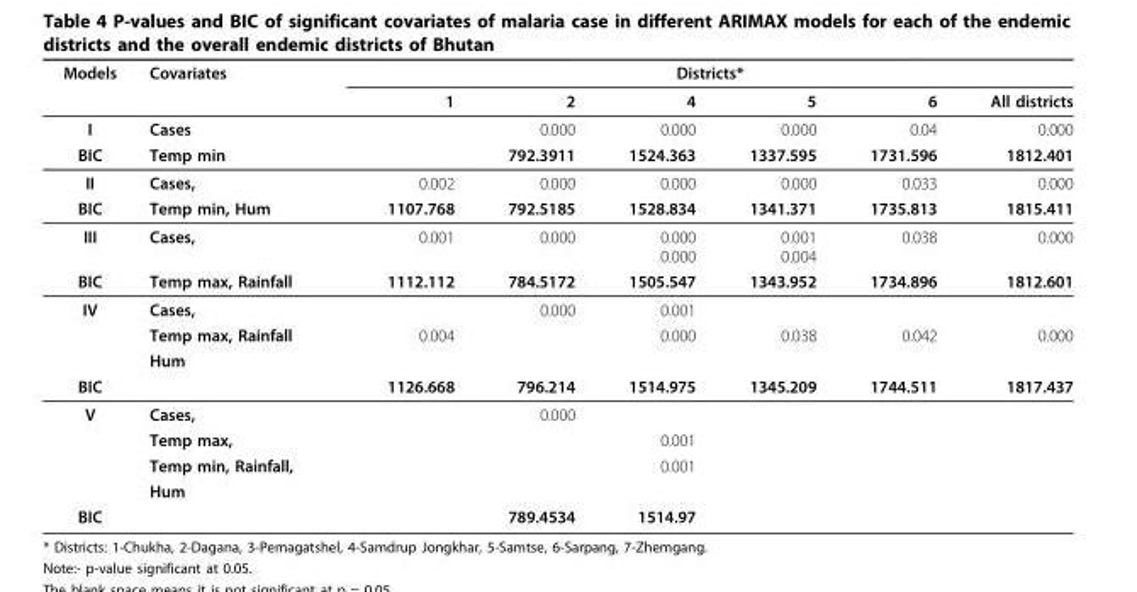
<table><thead><tr><td rowspan="2">Models</td><td rowspan="2">Covariates</td><td colspan="6">Districts*</td></tr><tr><td>1</td><td>2</td><td>4</td><td>5</td><td>6</td><td>All districts</td></tr></thead><tbody><tr><td>I</td><td>Cases</td><td></td><td>0.000</td><td>0.000</td><td>0.000</td><td>0.04</td><td>0.000</td></tr><tr><td>BIC</td><td>Temp min</td><td></td><td>792.3911</td><td>1524.363</td><td>1337.595</td><td>1731.596</td><td>1812.401</td></tr><tr><td>II</td><td>Cases,</td><td>0.002</td><td>0.000</td><td>0.000</td><td>0.000</td><td>0.033</td><td>0.000</td></tr><tr><td>BIC</td><td>Temp min, Hum</td><td>1107.768</td><td>792.5185</td><td>1528.834</td><td>1341.371</td><td>1735.813</td><td>1815.411</td></tr><tr><td>III</td><td>Cases,</td><td>0.001</td><td>0.000</td><td>0.000 0.000</td><td>0.001 0.004</td><td>0.038</td><td>0.000</td></tr><tr><td>BIC</td><td>Temp max, Rainfall</td><td>1112.112</td><td>784.5172</td><td>1505.547</td><td>1343.952</td><td>1734.896</td><td>1812.601</td></tr><tr><td rowspan="3">IV</td><td>Cases,</td><td></td><td>0.000</td><td>0.001</td><td></td><td></td><td></td></tr><tr><td>Temp max, Rainfall</td><td>0.004</td><td></td><td>0.000</td><td>0.038</td><td>0.042</td><td>0.000</td></tr><tr><td>Hum</td><td></td><td></td><td></td><td></td><td></td><td></td></tr><tr><td>BIC</td><td></td><td>1126.668</td><td>796.214</td><td>1514.975</td><td>1345.209</td><td>1744.511</td><td>1817.437</td></tr><tr><td rowspan="4">V</td><td>Cases,</td><td></td><td>0.000</td><td></td><td></td><td></td><td></td></tr><tr><td>Temp max,</td><td></td><td></td><td>0.001</td><td></td><td></td><td></td></tr><tr><td>Temp min, Rainfall,</td><td></td><td></td><td>0.001</td><td></td><td></td><td></td></tr><tr><td>Hum</td><td></td><td></td><td></td><td></td><td></td><td></td></tr><tr><td>BIC</td><td></td><td></td><td>789.4534</td><td>1514.97</td><td></td><td></td><td></td></tr></tbody></table>